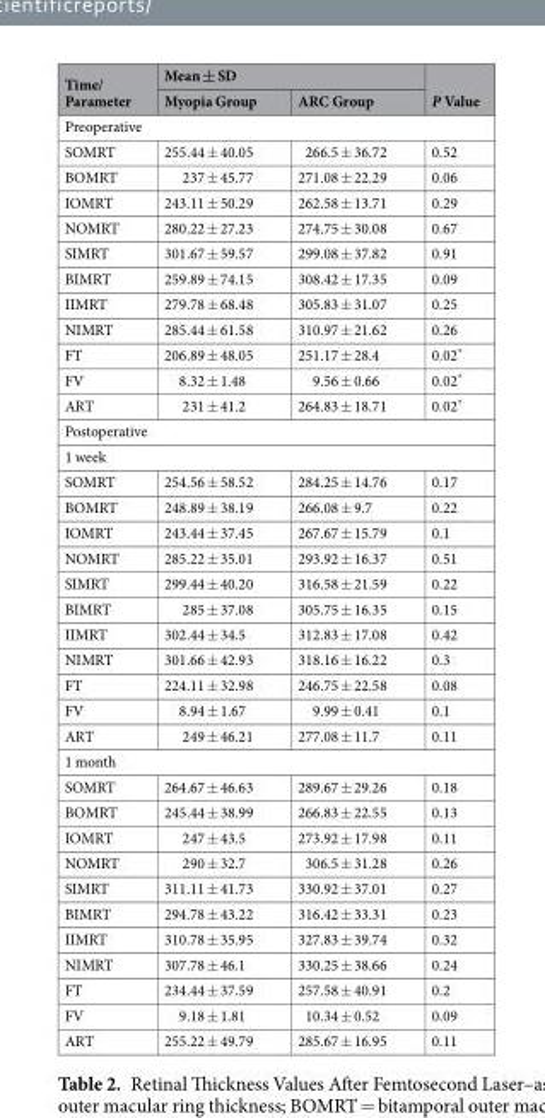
<table><thead><tr><td rowspan="2">Time/ Parameter</td><td colspan="2">Mean ± SD</td><td rowspan="2">P Value</td></tr><tr><td>Myopia Group</td><td>ARC Group</td></tr></thead><tbody><tr><td colspan="4">Preoperative</td></tr><tr><td>SOMRT</td><td>255.44 ± 40.05</td><td>266.5 ± 36.72</td><td>0.52</td></tr><tr><td>BOMRT</td><td>237 ± 45.77</td><td>271.08 ± 22.29</td><td>0.06</td></tr><tr><td>IOMRT</td><td>243.11 ± 50.29</td><td>262.58 ± 13.71</td><td>0.29</td></tr><tr><td>NOMRT</td><td>280.22 ± 27.23</td><td>274.75 ± 30.08</td><td>0.67</td></tr><tr><td>SIMRT</td><td>301.67 ± 59.57</td><td>299.08 ± 37.82</td><td>0.91</td></tr><tr><td>BIMRT</td><td>259.89 ± 74.15</td><td>308.42 ± 17.35</td><td>0.09</td></tr><tr><td>IIMRT</td><td>279.78 ± 68.48</td><td>305.83 ± 31.07</td><td>0.25</td></tr><tr><td>NIMRT</td><td>285.44 ± 61.58</td><td>310.97 ± 21.62</td><td>0.26</td></tr><tr><td>FT</td><td>206.89 ± 48.05</td><td>251.17 ± 28.4</td><td>0.02*</td></tr><tr><td>FV</td><td>8.32 ± 1.48</td><td>9.56 ± 0.66</td><td>0.02*</td></tr><tr><td>ART</td><td>231 ± 41.2</td><td>264.83 ± 18.71</td><td>0.02*</td></tr><tr><td colspan="4">Postoperative</td></tr><tr><td colspan="4">1 week</td></tr><tr><td>SOMRT</td><td>254.56 ± 58.52</td><td>284.25 ± 14.76</td><td>0.17</td></tr><tr><td>BOMRT</td><td>248.89 ± 38.19</td><td>266.08 ± 9.7</td><td>0.22</td></tr><tr><td>IOMRT</td><td>243.44 ± 37.45</td><td>267.67 ± 15.79</td><td>0.1</td></tr><tr><td>NOMRT</td><td>285.22 ± 35.01</td><td>293.92 ± 16.37</td><td>0.51</td></tr><tr><td>SIMRT</td><td>299.44 ± 40.20</td><td>316.58 ± 21.59</td><td>0.22</td></tr><tr><td>BIMRT</td><td>285 ± 37.08</td><td>305.75 ± 16.35</td><td>0.15</td></tr><tr><td>IIMRT</td><td>302.44 ± 34.5</td><td>312.83 ± 17.08</td><td>0.42</td></tr><tr><td>NIMRT</td><td>301.66 ± 42.93</td><td>318.16 ± 16.22</td><td>0.3</td></tr><tr><td>FT</td><td>224.11 ± 32.98</td><td>246.75 ± 22.58</td><td>0.08</td></tr><tr><td>FV</td><td>8.94 ± 1.67</td><td>9.99 ± 0.41</td><td>0.1</td></tr><tr><td>ART</td><td>249 ± 46.21</td><td>277.08 ± 11.7</td><td>0.11</td></tr><tr><td colspan="4">1 month</td></tr><tr><td>SOMRT</td><td>264.67 ± 46.63</td><td>289.67 ± 29.26</td><td>0.18</td></tr><tr><td>BOMRT</td><td>245.44 ± 38.99</td><td>266.83 ± 22.55</td><td>0.13</td></tr><tr><td>IOMRT</td><td>247 ± 43.5</td><td>273.92 ± 17.98</td><td>0.11</td></tr><tr><td>NOMRT</td><td>290 ± 32.7</td><td>306.5 ± 31.28</td><td>0.26</td></tr><tr><td>SIMRT</td><td>311.11 ± 41.73</td><td>330.92 ± 37.01</td><td>0.27</td></tr><tr><td>BIMRT</td><td>294.78 ± 43.22</td><td>316.42 ± 33.31</td><td>0.23</td></tr><tr><td>IIMRT</td><td>310.78 ± 35.95</td><td>327.83 ± 39.74</td><td>0.32</td></tr><tr><td>NIMRT</td><td>307.78 ± 46.1</td><td>330.25 ± 38.66</td><td>0.24</td></tr><tr><td>FT</td><td>234.44 ± 37.59</td><td>257.58 ± 40.91</td><td>0.2</td></tr><tr><td>FV</td><td>9.18 ± 1.81</td><td>10.34 ± 0.52</td><td>0.09</td></tr><tr><td>ART</td><td>255.22 ± 49.79</td><td>285.67 ± 16.95</td><td>0.11</td></tr></tbody></table>